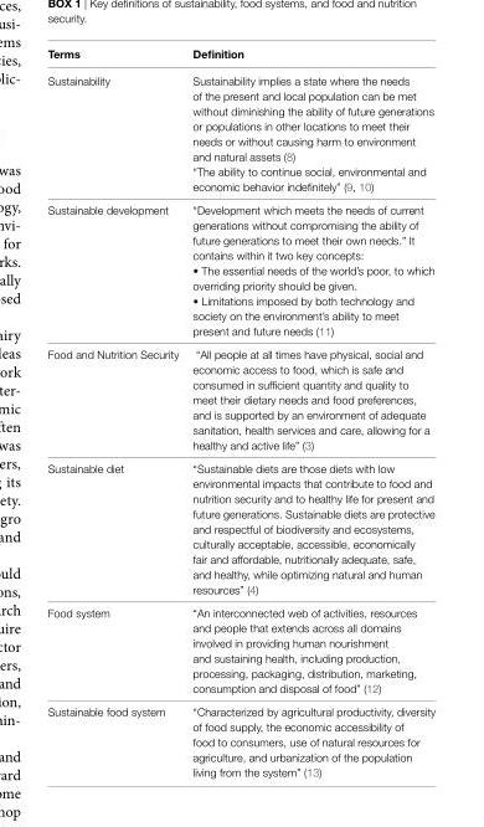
<table><thead><tr><td>Terms</td><td>Definition</td></tr></thead><tbody><tr><td>Sustainability</td><td>Sustainability implies a state where the needs of the present and local population can be met without diminishing the ability of future generations or populations in other locations to meet their needs or without causing harm to environment and natural assets (8) “The ability to continue social, environmental and economic behavior indefinitely” (9, 10)</td></tr><tr><td>Sustainable development</td><td>“Development which meets the needs of current generations without compromising the ability of future generations to meet their own needs.” It contains within it two key concepts: • The essential needs of the world’s poor, to which overriding priority should be given. • Limitations imposed by both technology and society on the environment’s ability to meet present and future needs (11)</td></tr><tr><td>Food and Nutrition Security</td><td>“All people at all times have physical, social and economic access to food, which is safe and consumed in sufficient quantity and quality to meet their dietary needs and food preferences, and is supported by an environment of adequate sanitation, health services and care, allowing for a healthy and active life” (3)</td></tr><tr><td>Sustainable diet</td><td>“Sustainable diets are those diets with low environmental impacts that contribute to food and nutrition security and to healthy life for present and future generations. Sustainable diets are protective and respectful of biodiversity and ecosystems, culturally acceptable, accessible, economically fair and affordable, nutritionally adequate, safe, and healthy, while optimizing natural and human resources” (4)</td></tr><tr><td>Food system</td><td>“An interconnected web of activities, resources and people that extends across all domains involved in providing human nourishment and sustaining health, including production, processing, packaging, distribution, marketing, consumption and disposal of food” (12)</td></tr><tr><td>Sustainable food system</td><td>“Characterized by agricultural productivity, diversity of food supply, the economic accessibility of food to consumers, use of natural resources for agriculture, and urbanization of the population living from the system” (13)</td></tr></tbody></table>